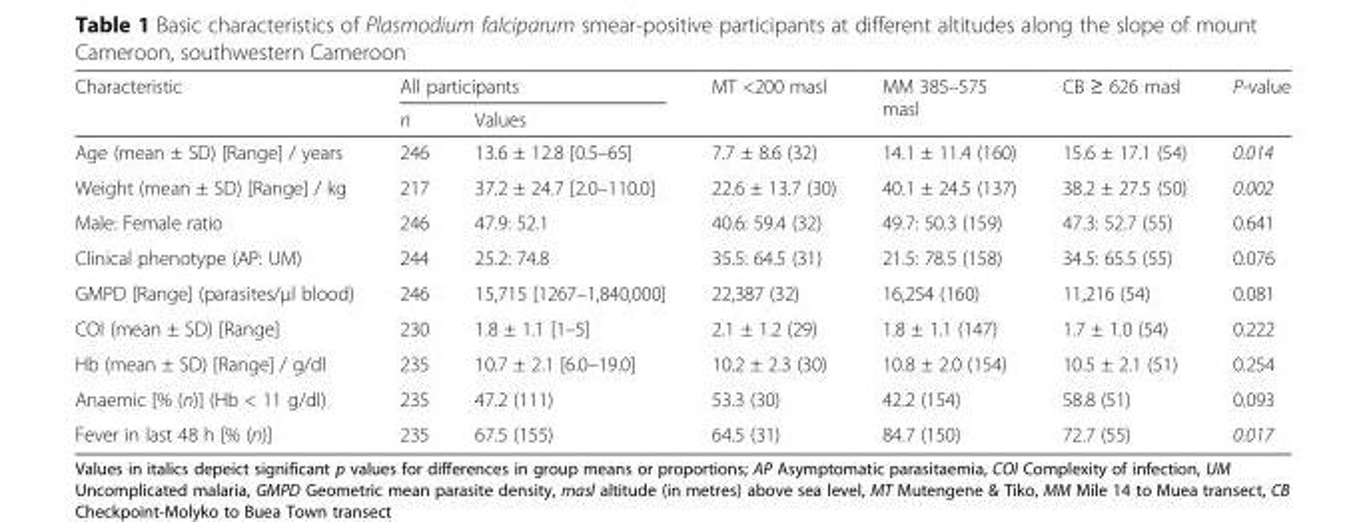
<table><thead><tr><td rowspan="2">Characteristic</td><td colspan="2">All participants</td><td rowspan="2">MT &lt;200 masl</td><td rowspan="2">MM 385–575 masl</td><td rowspan="2">CB ≥ 626 masl</td><td rowspan="2">P-value</td></tr><tr><td>n</td><td>Values</td></tr></thead><tbody><tr><td>Age (mean ± SD) [Range] / years</td><td>246</td><td>13.6 ± 12.8 [0.5–65]</td><td>7.7 ± 8.6 (32)</td><td>14.1 ± 11.4 (160)</td><td>15.6 ± 17.1 (54)</td><td>0.014</td></tr><tr><td>Weight (mean ± SD) [Range] / kg</td><td>217</td><td>37.2 ± 24.7 [2.0–110.0]</td><td>22.6 ± 13.7 (30)</td><td>40.1 ± 24.5 (137)</td><td>38.2 ± 27.5 (50)</td><td>0.002</td></tr><tr><td>Male: Female ratio</td><td>246</td><td>47.9: 52.1</td><td>40.6: 59.4 (32)</td><td>49.7: 50.3 (159)</td><td>47.3: 52.7 (55)</td><td>0.641</td></tr><tr><td>Clinical phenotype (AP: UM)</td><td>244</td><td>25.2: 74.8</td><td>35.5: 64.5 (31)</td><td>21.5: 78.5 (158)</td><td>34.5: 65.5 (55)</td><td>0.076</td></tr><tr><td>GMPD [Range] (parasites/μl blood)</td><td>246</td><td>15,715 [1267–1,840,000]</td><td>22,387 (32)</td><td>16,254 (160)</td><td>11,216 (54)</td><td>0.081</td></tr><tr><td>COI (mean ± SD) [Range]</td><td>230</td><td>1.8 ± 1.1 [1–5]</td><td>2.1 ± 1.2 (29)</td><td>1.8 ± 1.1 (147)</td><td>1.7 ± 1.0 (54)</td><td>0.222</td></tr><tr><td>Hb (mean ± SD) [Range] / g/dl</td><td>235</td><td>10.7 ± 2.1 [6.0–19.0]</td><td>10.2 ± 2.3 (30)</td><td>10.8 ± 2.0 (154)</td><td>10.5 ± 2.1 (51)</td><td>0.254</td></tr><tr><td>Anaemic [% (n)] (Hb &lt; 11 g/dl)</td><td>235</td><td>47.2 (111)</td><td>53.3 (30)</td><td>42.2 (154)</td><td>58.8 (51)</td><td>0.093</td></tr><tr><td>Fever in last 48 h [% (n)]</td><td>235</td><td>67.5 (155)</td><td>64.5 (31)</td><td>84.7 (150)</td><td>72.7 (55)</td><td>0.017</td></tr></tbody></table>